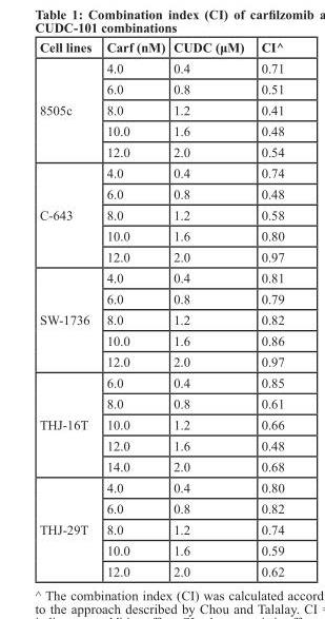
<table><thead><tr><td>Cell lines</td><td>Carf (nM)</td><td>CUDC (μM)</td><td>CI^</td></tr></thead><tbody><tr><td rowspan="5">8505c</td><td>4.0</td><td>0.4</td><td>0.71</td></tr><tr><td>6.0</td><td>0.8</td><td>0.51</td></tr><tr><td>8.0</td><td>1.2</td><td>0.41</td></tr><tr><td>10.0</td><td>1.6</td><td>0.48</td></tr><tr><td>12.0</td><td>2.0</td><td>0.54</td></tr><tr><td rowspan="5">C-643</td><td>4.0</td><td>0.4</td><td>0.74</td></tr><tr><td>6.0</td><td>0.8</td><td>0.48</td></tr><tr><td>8.0</td><td>1.2</td><td>0.58</td></tr><tr><td>10.0</td><td>1.6</td><td>0.80</td></tr><tr><td>12.0</td><td>2.0</td><td>0.97</td></tr><tr><td rowspan="5">SW-1736</td><td>4.0</td><td>0.4</td><td>0.81</td></tr><tr><td>6.0</td><td>0.8</td><td>0.79</td></tr><tr><td>8.0</td><td>1.2</td><td>0.82</td></tr><tr><td>10.0</td><td>1.6</td><td>0.86</td></tr><tr><td>12.0</td><td>2.0</td><td>0.97</td></tr><tr><td rowspan="5">THJ-16T</td><td>6.0</td><td>0.4</td><td>0.85</td></tr><tr><td>8.0</td><td>0.8</td><td>0.61</td></tr><tr><td>10.0</td><td>1.2</td><td>0.66</td></tr><tr><td>12.0</td><td>1.6</td><td>0.48</td></tr><tr><td>14.0</td><td>2.0</td><td>0.68</td></tr><tr><td rowspan="5">THJ-29T</td><td>4.0</td><td>0.4</td><td>0.80</td></tr><tr><td>6.0</td><td>0.8</td><td>0.82</td></tr><tr><td>8.0</td><td>1.2</td><td>0.74</td></tr><tr><td>10.0</td><td>1.6</td><td>0.59</td></tr><tr><td>12.0</td><td>2.0</td><td>0.62</td></tr></tbody></table>